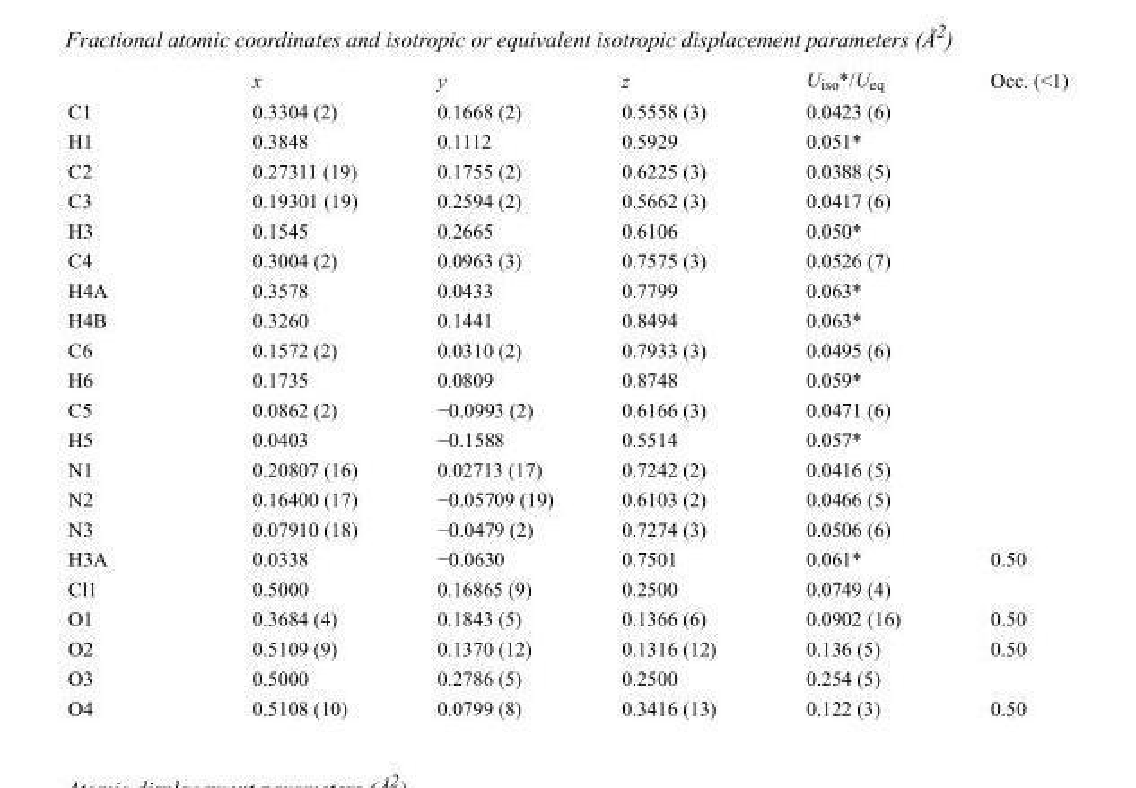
<table><thead><tr><td></td><td>x</td><td>y</td><td>z</td><td>U<sub>iso</sub>*/U<sub>eq</sub></td><td>Occ. (&lt;1)</td></tr></thead><tbody><tr><td>C1</td><td>0.3304 (2)</td><td>0.1668 (2)</td><td>0.5558 (3)</td><td>0.0423 (6)</td><td></td></tr><tr><td>H1</td><td>0.3848</td><td>0.1112</td><td>0.5929</td><td>0.051*</td><td></td></tr><tr><td>C2</td><td>0.27311 (19)</td><td>0.1755 (2)</td><td>0.6225 (3)</td><td>0.0388 (5)</td><td></td></tr><tr><td>C3</td><td>0.19301 (19)</td><td>0.2594 (2)</td><td>0.5662 (3)</td><td>0.0417 (6)</td><td></td></tr><tr><td>H3</td><td>0.1545</td><td>0.2665</td><td>0.6106</td><td>0.050*</td><td></td></tr><tr><td>C4</td><td>0.3004 (2)</td><td>0.0963 (3)</td><td>0.7575 (3)</td><td>0.0526 (7)</td><td></td></tr><tr><td>H4A</td><td>0.3578</td><td>0.0433</td><td>0.7799</td><td>0.063*</td><td></td></tr><tr><td>H4B</td><td>0.3260</td><td>0.1441</td><td>0.8494</td><td>0.063*</td><td></td></tr><tr><td>C6</td><td>0.1572 (2)</td><td>0.0310 (2)</td><td>0.7933 (3)</td><td>0.0495 (6)</td><td></td></tr><tr><td>H6</td><td>0.1735</td><td>0.0809</td><td>0.8748</td><td>0.059*</td><td></td></tr><tr><td>C5</td><td>0.0862 (2)</td><td>−0.0993 (2)</td><td>0.6166 (3)</td><td>0.0471 (6)</td><td></td></tr><tr><td>H5</td><td>0.0403</td><td>−0.1588</td><td>0.5514</td><td>0.057*</td><td></td></tr><tr><td>N1</td><td>0.20807 (16)</td><td>0.02713 (17)</td><td>0.7242 (2)</td><td>0.0416 (5)</td><td></td></tr><tr><td>N2</td><td>0.16400 (17)</td><td>−0.05709 (19)</td><td>0.6103 (2)</td><td>0.0466 (5)</td><td></td></tr><tr><td>N3</td><td>0.07910 (18)</td><td>−0.0479 (2)</td><td>0.7274 (3)</td><td>0.0506 (6)</td><td></td></tr><tr><td>H3A</td><td>0.0338</td><td>−0.0630</td><td>0.7501</td><td>0.061*</td><td>0.50</td></tr><tr><td>Cl1</td><td>0.5000</td><td>0.16865 (9)</td><td>0.2500</td><td>0.0749 (4)</td><td></td></tr><tr><td>O1</td><td>0.3684 (4)</td><td>0.1843 (5)</td><td>0.1366 (6)</td><td>0.0902 (16)</td><td>0.50</td></tr><tr><td>O2</td><td>0.5109 (9)</td><td>0.1370 (12)</td><td>0.1316 (12)</td><td>0.136 (5)</td><td>0.50</td></tr><tr><td>O3</td><td>0.5000</td><td>0.2786 (5)</td><td>0.2500</td><td>0.254 (5)</td><td></td></tr><tr><td>O4</td><td>0.5108 (10)</td><td>0.0799 (8)</td><td>0.3416 (13)</td><td>0.122 (3)</td><td>0.50</td></tr></tbody></table>